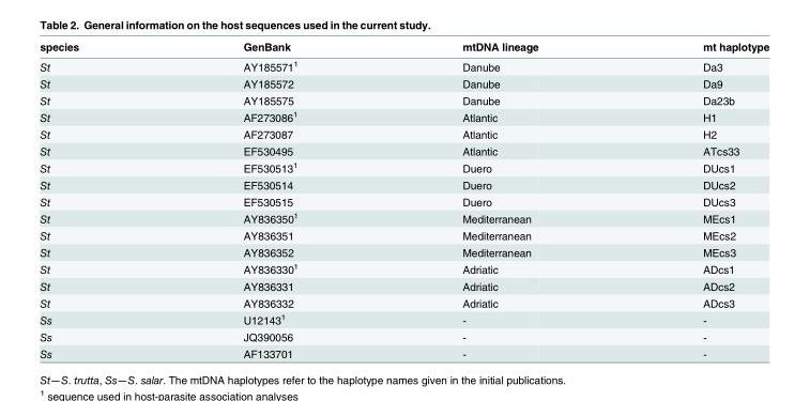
<table><thead><tr><td>species</td><td>GenBank</td><td>mtDNA lineage</td><td>mt haplotype</td></tr></thead><tbody><tr><td>St</td><td>AY185571<sup>1</sup></td><td>Danube</td><td>Da3</td></tr><tr><td>St</td><td>AY185572</td><td>Danube</td><td>Da9</td></tr><tr><td>St</td><td>AY185575</td><td>Danube</td><td>Da23b</td></tr><tr><td>St</td><td>AF273086<sup>1</sup></td><td>Atlantic</td><td>H1</td></tr><tr><td>St</td><td>AF273087</td><td>Atlantic</td><td>H2</td></tr><tr><td>St</td><td>EF530495</td><td>Atlantic</td><td>ATcs33</td></tr><tr><td>St</td><td>EF530513<sup>1</sup></td><td>Duero</td><td>DUcs1</td></tr><tr><td>St</td><td>EF530514</td><td>Duero</td><td>DUcs2</td></tr><tr><td>St</td><td>EF530515</td><td>Duero</td><td>DUcs3</td></tr><tr><td>St</td><td>AY836350<sup>1</sup></td><td>Mediterranean</td><td>MEcs1</td></tr><tr><td>St</td><td>AY836351</td><td>Mediterranean</td><td>MEcs2</td></tr><tr><td>St</td><td>AY836352</td><td>Mediterranean</td><td>MEcs3</td></tr><tr><td>St</td><td>AY836330<sup>1</sup></td><td>Adriatic</td><td>ADcs1</td></tr><tr><td>St</td><td>AY836331</td><td>Adriatic</td><td>ADcs2</td></tr><tr><td>St</td><td>AY836332</td><td>Adriatic</td><td>ADcs3</td></tr><tr><td>Ss</td><td>U12143<sup>1</sup></td><td>-</td><td>-</td></tr><tr><td>Ss</td><td>JQ390056</td><td>-</td><td>-</td></tr><tr><td>Ss</td><td>AF133701</td><td>-</td><td>-</td></tr></tbody></table>